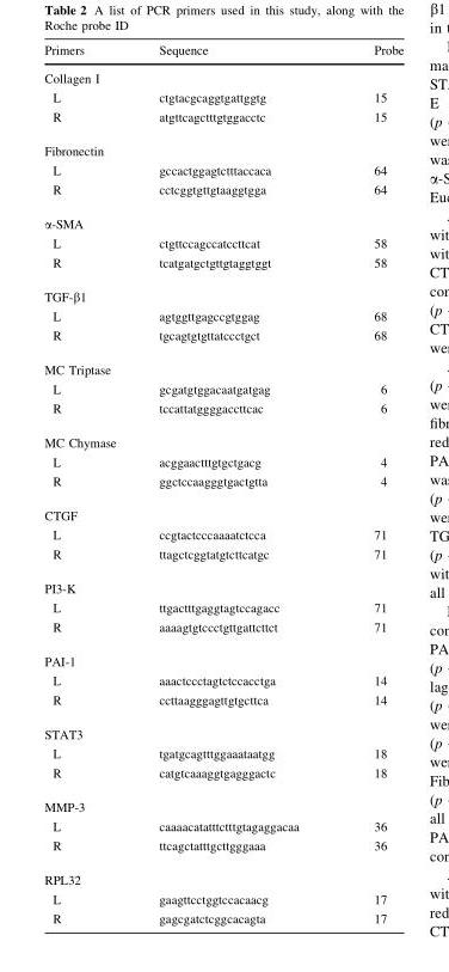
<table><thead><tr><td>Primers</td><td>Sequence</td><td>Probe</td></tr></thead><tbody><tr><td colspan="3">Collagen I</td></tr><tr><td>L</td><td>ctgtacgcaggtgattggtg</td><td>15</td></tr><tr><td>R</td><td>atgttcagctttgtggacctc</td><td>15</td></tr><tr><td colspan="3">Fibronectin</td></tr><tr><td>L</td><td>gccactggagtctttaccaca</td><td>64</td></tr><tr><td>R</td><td>cctcggtgttgtaaggtgga</td><td>64</td></tr><tr><td colspan="3">α-SMA</td></tr><tr><td>L</td><td>ctgttccagccatccttcat</td><td>58</td></tr><tr><td>R</td><td>tcatgatgctgttgtaggtggt</td><td>58</td></tr><tr><td colspan="3">TGF-β1</td></tr><tr><td>L</td><td>agtggttgagccgtggag</td><td>68</td></tr><tr><td>R</td><td>tgcagtgtgttatccctgct</td><td>68</td></tr><tr><td colspan="3">MC Triptase</td></tr><tr><td>L</td><td>gcgatgtggacaatgatgag</td><td>6</td></tr><tr><td>R</td><td>tccattatggggaccttcac</td><td>6</td></tr><tr><td colspan="3">MC Chymase</td></tr><tr><td>L</td><td>acggaactttgtgctgacg</td><td>4</td></tr><tr><td>R</td><td>ggctccaagggtgactgtta</td><td>4</td></tr><tr><td colspan="3">CTGF</td></tr><tr><td>L</td><td>ccgtactcccaaaatctcca</td><td>71</td></tr><tr><td>R</td><td>ttagctcggtatgtcttcatgc</td><td>71</td></tr><tr><td colspan="3">PI3-K</td></tr><tr><td>L</td><td>ttgactttgaggtagtccagacc</td><td>71</td></tr><tr><td>R</td><td>aaaagtgtccctgttgattcttct</td><td>71</td></tr><tr><td colspan="3">PAI-1</td></tr><tr><td>L</td><td>aaactccctagtctccacctga</td><td>14</td></tr><tr><td>R</td><td>ccttaagggagttgtgcttca</td><td>14</td></tr><tr><td colspan="3">STAT3</td></tr><tr><td>L</td><td>tgatgcagtttggaaataatgg</td><td>18</td></tr><tr><td>R</td><td>catgtcaaaggtgagggactc</td><td>18</td></tr><tr><td colspan="3">MMP-3</td></tr><tr><td>L</td><td>caaaacatatttctttgtagaggacaa</td><td>36</td></tr><tr><td>R</td><td>ttcagctatttgcttgggaaa</td><td>36</td></tr><tr><td colspan="3">RPL32</td></tr><tr><td>L</td><td>gaagttcctggtccacaacg</td><td>17</td></tr><tr><td>R</td><td>gagcgatctcggcacagta</td><td>17</td></tr></tbody></table>